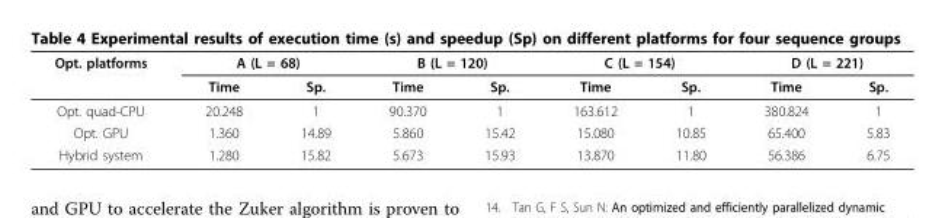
<table><thead><tr><td rowspan="2">Opt. platforms</td><td colspan="2">A (L = 68)</td><td colspan="2">B (L = 120)</td><td colspan="2">C (L = 154)</td><td colspan="2">D (L = 221)</td></tr><tr><td>Time</td><td>Sp.</td><td>Time</td><td>Sp.</td><td>Time</td><td>Sp.</td><td>Time</td><td>Sp.</td></tr></thead><tbody><tr><td>Opt. quad-CPU</td><td>20.248</td><td>1</td><td>90.370</td><td>1</td><td>163.612</td><td>1</td><td>380.824</td><td>1</td></tr><tr><td>Opt. GPU</td><td>1.360</td><td>14.89</td><td>5.860</td><td>15.42</td><td>15.080</td><td>10.85</td><td>65.400</td><td>5.83</td></tr><tr><td>Hybrid system</td><td>1.280</td><td>15.82</td><td>5.673</td><td>15.93</td><td>13.870</td><td>11.80</td><td>56.386</td><td>6.75</td></tr></tbody></table>